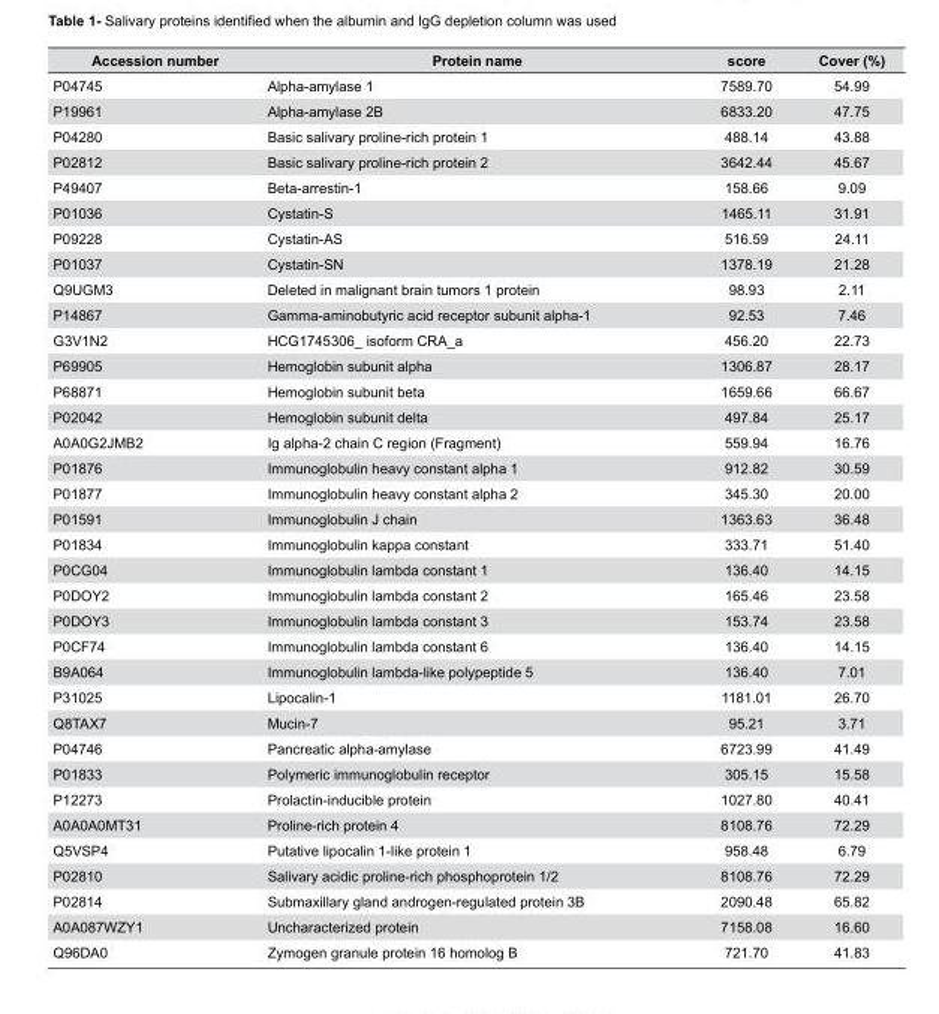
<table><thead><tr><td>Accession number</td><td>Protein name</td><td>score</td><td>Cover (%)</td></tr></thead><tbody><tr><td>P04745</td><td>Alpha-amylase 1</td><td>7589.70</td><td>54.99</td></tr><tr><td>P19961</td><td>Alpha-amylase 2B</td><td>6833.20</td><td>47.75</td></tr><tr><td>P04280</td><td>Basic salivary proline-rich protein 1</td><td>488.14</td><td>43.88</td></tr><tr><td>P02812</td><td>Basic salivary proline-rich protein 2</td><td>3642.44</td><td>45.67</td></tr><tr><td>P49407</td><td>Beta-arrestin-1</td><td>158.66</td><td>9.09</td></tr><tr><td>P01036</td><td>Cystatin-S</td><td>1465.11</td><td>31.91</td></tr><tr><td>P09228</td><td>Cystatin-AS</td><td>516.59</td><td>24.11</td></tr><tr><td>P01037</td><td>Cystatin-SN</td><td>1378.19</td><td>21.28</td></tr><tr><td>Q9UGM3</td><td>Deleted in malignant brain tumors 1 protein</td><td>98.93</td><td>2.11</td></tr><tr><td>P14867</td><td>Gamma-aminobutyric acid receptor subunit alpha-1</td><td>92.53</td><td>7.46</td></tr><tr><td>G3V1N2</td><td>HCG1745306_ isoform CRA_a</td><td>456.20</td><td>22.73</td></tr><tr><td>P69905</td><td>Hemoglobin subunit alpha</td><td>1306.87</td><td>28.17</td></tr><tr><td>P68871</td><td>Hemoglobin subunit beta</td><td>1659.66</td><td>66.67</td></tr><tr><td>P02042</td><td>Hemoglobin subunit delta</td><td>497.84</td><td>25.17</td></tr><tr><td>A0A0G2JMB2</td><td>Ig alpha-2 chain C region (Fragment)</td><td>559.94</td><td>16.76</td></tr><tr><td>P01876</td><td>Immunoglobulin heavy constant alpha 1</td><td>912.82</td><td>30.59</td></tr><tr><td>P01877</td><td>Immunoglobulin heavy constant alpha 2</td><td>345.30</td><td>20.00</td></tr><tr><td>P01591</td><td>Immunoglobulin J chain</td><td>1363.63</td><td>36.48</td></tr><tr><td>P01834</td><td>Immunoglobulin kappa constant</td><td>333.71</td><td>51.40</td></tr><tr><td>P0CG04</td><td>Immunoglobulin lambda constant 1</td><td>136.40</td><td>14.15</td></tr><tr><td>P0DOY2</td><td>Immunoglobulin lambda constant 2</td><td>165.46</td><td>23.58</td></tr><tr><td>P0DOY3</td><td>Immunoglobulin lambda constant 3</td><td>153.74</td><td>23.58</td></tr><tr><td>P0CF74</td><td>Immunoglobulin lambda constant 6</td><td>136.40</td><td>14.15</td></tr><tr><td>B9A064</td><td>Immunoglobulin lambda-like polypeptide 5</td><td>136.40</td><td>7.01</td></tr><tr><td>P31025</td><td>Lipocalin-1</td><td>1181.01</td><td>26.70</td></tr><tr><td>Q8TAX7</td><td>Mucin-7</td><td>95.21</td><td>3.71</td></tr><tr><td>P04746</td><td>Pancreatic alpha-amylase</td><td>6723.99</td><td>41.49</td></tr><tr><td>P01833</td><td>Polymeric immunoglobulin receptor</td><td>305.15</td><td>15.58</td></tr><tr><td>P12273</td><td>Prolactin-inducible protein</td><td>1027.80</td><td>40.41</td></tr><tr><td>A0A0A0MT31</td><td>Proline-rich protein 4</td><td>8108.76</td><td>72.29</td></tr><tr><td>Q5VSP4</td><td>Putative lipocalin 1-like protein 1</td><td>958.48</td><td>6.79</td></tr><tr><td>P02810</td><td>Salivary acidic proline-rich phosphoprotein 1/2</td><td>8108.76</td><td>72.29</td></tr><tr><td>P02814</td><td>Submaxillary gland androgen-regulated protein 3B</td><td>2090.48</td><td>65.82</td></tr><tr><td>A0A087WZY1</td><td>Uncharacterized protein</td><td>7158.08</td><td>16.60</td></tr><tr><td>Q96DA0</td><td>Zymogen granule protein 16 homolog B</td><td>721.70</td><td>41.83</td></tr></tbody></table>